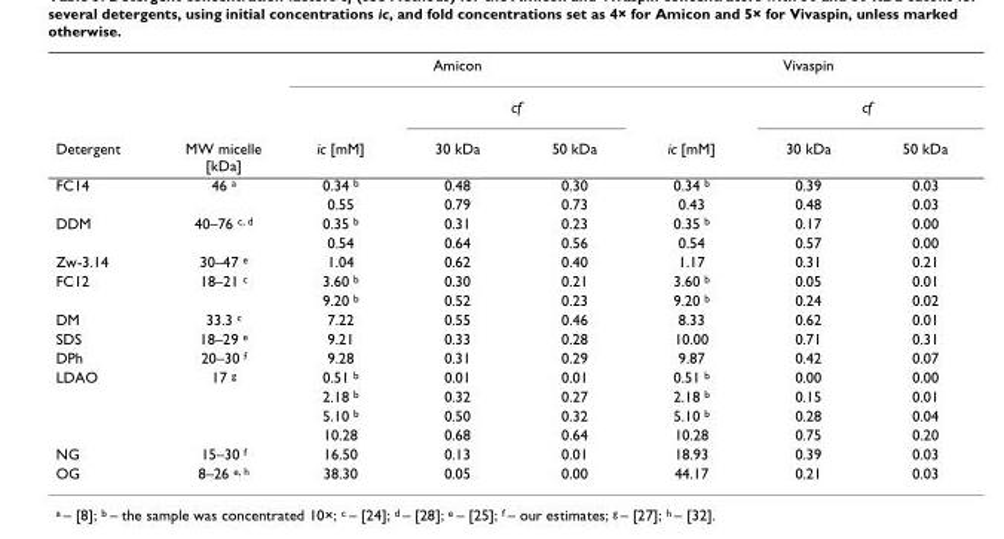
<table><thead><tr><td rowspan="3">Detergent</td><td rowspan="3">MW micelle [kDa]</td><td colspan="3">Amicon</td><td colspan="3">Vivaspin</td></tr><tr><td rowspan="2">ic [mM]</td><td colspan="2">cf</td><td rowspan="2">ic [mM]</td><td colspan="2">cf</td></tr><tr><td>30 kDa</td><td>50 kDa</td><td>30 kDa</td><td>50 kDa</td></tr></thead><tbody><tr><td rowspan="2">FC14</td><td>46 <sup>a</sup></td><td>0.34 <sup>b</sup></td><td>0.48</td><td>0.30</td><td>0.34 <sup>b</sup></td><td>0.39</td><td>0.03</td></tr><tr><td></td><td>0.55</td><td>0.79</td><td>0.73</td><td>0.43</td><td>0.48</td><td>0.03</td></tr><tr><td rowspan="2">DDM</td><td>40–76 <sup>c, d</sup></td><td>0.35 <sup>b</sup></td><td>0.31</td><td>0.23</td><td>0.35 <sup>b</sup></td><td>0.17</td><td>0.00</td></tr><tr><td></td><td>0.54</td><td>0.64</td><td>0.56</td><td>0.54</td><td>0.57</td><td>0.00</td></tr><tr><td>Zw-3.14</td><td>30–47 <sup>e</sup></td><td>1.04</td><td>0.62</td><td>0.40</td><td>1.17</td><td>0.31</td><td>0.21</td></tr><tr><td rowspan="2">FC12</td><td>18–21 <sup>c</sup></td><td>3.60 <sup>b</sup></td><td>0.30</td><td>0.21</td><td>3.60 <sup>b</sup></td><td>0.05</td><td>0.01</td></tr><tr><td></td><td>9.20 <sup>b</sup></td><td>0.52</td><td>0.23</td><td>9.20 <sup>b</sup></td><td>0.24</td><td>0.02</td></tr><tr><td>DM</td><td>33.3 <sup>c</sup></td><td>7.22</td><td>0.55</td><td>0.46</td><td>8.33</td><td>0.62</td><td>0.01</td></tr><tr><td>SDS</td><td>18–29 <sup>e</sup></td><td>9.21</td><td>0.33</td><td>0.28</td><td>10.00</td><td>0.71</td><td>0.31</td></tr><tr><td>DPh</td><td>20–30 <sup>f</sup></td><td>9.28</td><td>0.31</td><td>0.29</td><td>9.87</td><td>0.42</td><td>0.07</td></tr><tr><td rowspan="4">LDAO</td><td>17 <sup>g</sup></td><td>0.51 <sup>b</sup></td><td>0.01</td><td>0.01</td><td>0.51 <sup>b</sup></td><td>0.00</td><td>0.00</td></tr><tr><td></td><td>2.18 <sup>b</sup></td><td>0.32</td><td>0.27</td><td>2.18 <sup>b</sup></td><td>0.15</td><td>0.01</td></tr><tr><td></td><td>5.10 <sup>b</sup></td><td>0.50</td><td>0.32</td><td>5.10 <sup>b</sup></td><td>0.28</td><td>0.04</td></tr><tr><td></td><td>10.28</td><td>0.68</td><td>0.64</td><td>10.28</td><td>0.75</td><td>0.20</td></tr><tr><td>NG</td><td>15–30 <sup>f</sup></td><td>16.50</td><td>0.13</td><td>0.01</td><td>18.93</td><td>0.39</td><td>0.03</td></tr><tr><td>OG</td><td>8–26 <sup>e, h</sup></td><td>38.30</td><td>0.05</td><td>0.00</td><td>44.17</td><td>0.21</td><td>0.03</td></tr></tbody></table>